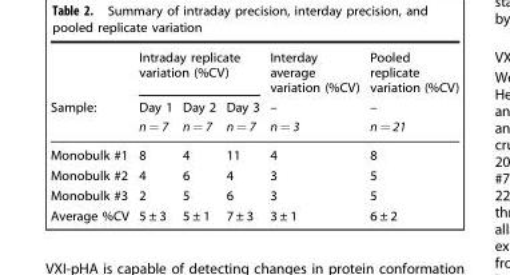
<table><thead><tr><td rowspan="3">Sample:</td><td colspan="3">Intraday replicate variation (%CV)</td><td rowspan="3">Interday average variation (%CV) – n = 3</td><td rowspan="3">Pooled replicate variation (%CV) – n = 21</td></tr><tr><td rowspan="2">Day 1 n = 7</td><td rowspan="2">Day 2 n = 7</td><td rowspan="2">Day 3 n = 7</td></tr><tr></tr></thead><tbody><tr><td>Monobulk #1</td><td>8</td><td>4</td><td>11</td><td>4</td><td>8</td></tr><tr><td>Monobulk #2</td><td>4</td><td>6</td><td>4</td><td>3</td><td>5</td></tr><tr><td>Monobulk #3</td><td>2</td><td>5</td><td>6</td><td>3</td><td>5</td></tr><tr><td>Average %CV</td><td>5 ± 3</td><td>5 ± 1</td><td>7 ± 3</td><td>3 ± 1</td><td>6 ± 2</td></tr></tbody></table>